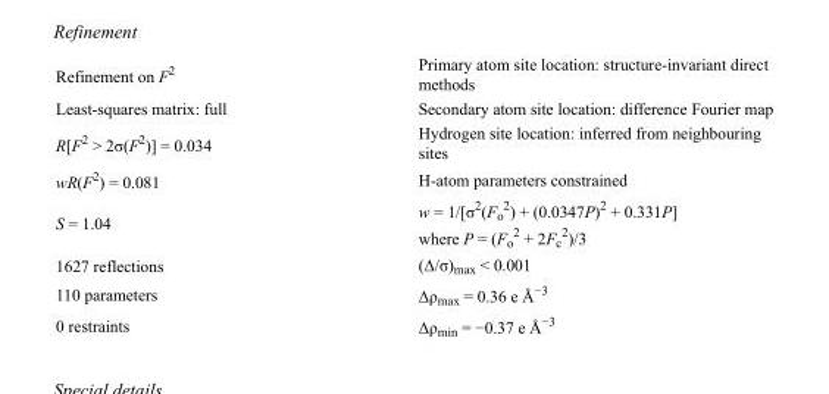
<table><tbody><tr><td>Refinement on F<sup>2</sup></td><td>Primary atom site location: structure-invariant direct methods</td></tr><tr><td>Least-squares matrix: full</td><td>Secondary atom site location: difference Fourier map</td></tr><tr><td>R[F<sup>2</sup> &gt; 2σ(F<sup>2</sup>)] = 0.034</td><td>Hydrogen site location: inferred from neighbouring sites</td></tr><tr><td>wR(F<sup>2</sup>) = 0.081</td><td>H-atom parameters constrained</td></tr><tr><td>S = 1.04</td><td>w = 1/[σ<sup>2</sup>(F<sub>o</sub> <sup>2</sup>) + (0.0347P)<sup>2</sup> + 0.331P] where P = (F<sub>o</sub> <sup>2</sup> + 2F<sub>c</sub> <sup>2</sup>)/3</td></tr><tr><td>1627 reflections</td><td>(Δ/σ)<sub>max</sub> &lt; 0.001</td></tr><tr><td>110 parameters</td><td>Δρ<sub>max</sub> = 0.36 e Å<sup>−3</sup></td></tr><tr><td>0 restraints</td><td>Δρ<sub>min</sub> = −0.37 e Å<sup>−3</sup></td></tr></tbody></table>